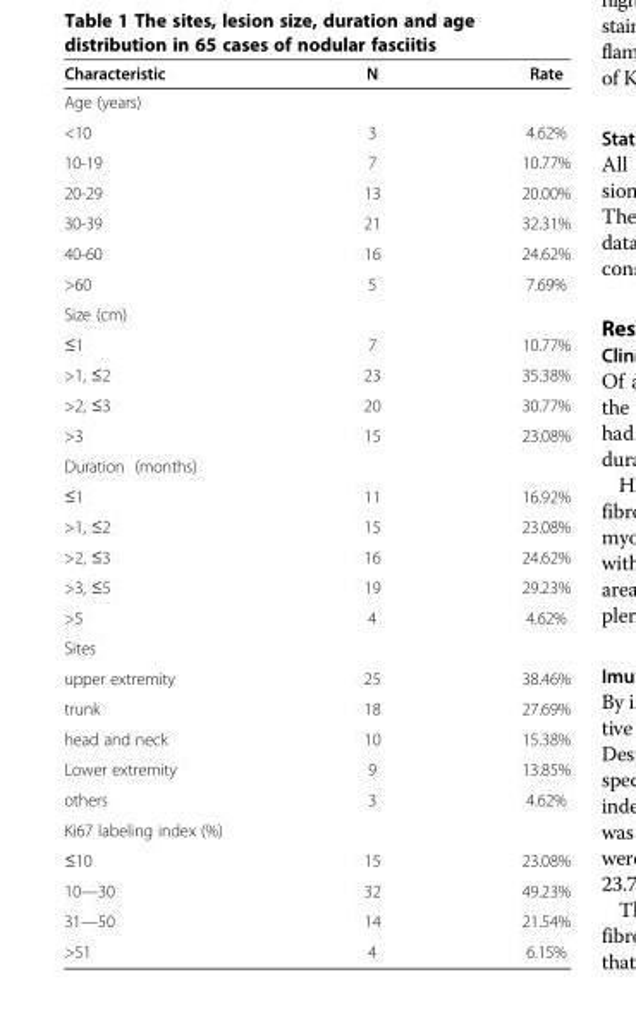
<table><thead><tr><td>Characteristic</td><td>N</td><td>Rate</td></tr></thead><tbody><tr><td colspan="3">Age (years)</td></tr><tr><td>&lt;10</td><td>3</td><td>4.62%</td></tr><tr><td>10-19</td><td>7</td><td>10.77%</td></tr><tr><td>20-29</td><td>13</td><td>20.00%</td></tr><tr><td>30-39</td><td>21</td><td>32.31%</td></tr><tr><td>40-60</td><td>16</td><td>24.62%</td></tr><tr><td>&gt;60</td><td>5</td><td>7.69%</td></tr><tr><td colspan="3">Size (cm)</td></tr><tr><td>≤1</td><td>7</td><td>10.77%</td></tr><tr><td>&gt;1, ≤2</td><td>23</td><td>35.38%</td></tr><tr><td>&gt;2, ≤3</td><td>20</td><td>30.77%</td></tr><tr><td>&gt;3</td><td>15</td><td>23.08%</td></tr><tr><td colspan="3">Duration (months)</td></tr><tr><td>≤1</td><td>11</td><td>16.92%</td></tr><tr><td>&gt;1, ≤2</td><td>15</td><td>23.08%</td></tr><tr><td>&gt;2, ≤3</td><td>16</td><td>24.62%</td></tr><tr><td>&gt;3, ≤5</td><td>19</td><td>29.23%</td></tr><tr><td>&gt;5</td><td>4</td><td>4.62%</td></tr><tr><td colspan="3">Sites</td></tr><tr><td>upper extremity</td><td>25</td><td>38.46%</td></tr><tr><td>trunk</td><td>18</td><td>27.69%</td></tr><tr><td>head and neck</td><td>10</td><td>15.38%</td></tr><tr><td>Lower extremity</td><td>9</td><td>13.85%</td></tr><tr><td>others</td><td>3</td><td>4.62%</td></tr><tr><td colspan="3">Ki67 labeling index (%)</td></tr><tr><td>≤10</td><td>15</td><td>23.08%</td></tr><tr><td>10—30</td><td>32</td><td>49.23%</td></tr><tr><td>31—50</td><td>14</td><td>21.54%</td></tr><tr><td>&gt;51</td><td>4</td><td>6.15%</td></tr></tbody></table>